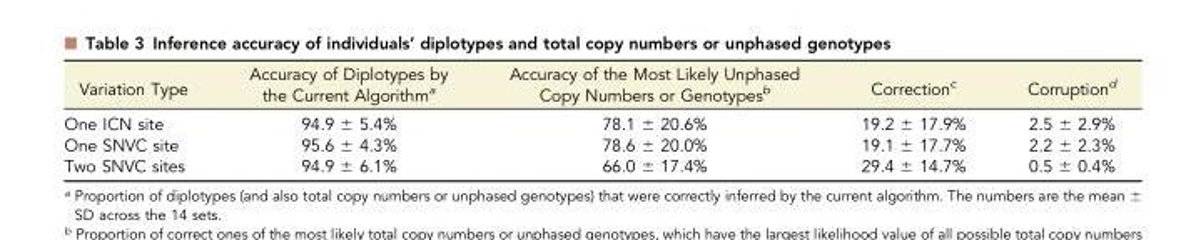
<table><thead><tr><td>Variation Type</td><td>Accuracy of Diplotypes by the Current Algorithma</td><td>Accuracy of the Most Likely Unphased Copy Numbers or Genotypesb</td><td>Correctionc</td><td>Corruptiond</td></tr></thead><tbody><tr><td>One ICN site</td><td>94.9 ± 5.4%</td><td>78.1 ± 20.6%</td><td>19.2 ± 17.9%</td><td>2.5 ± 2.9%</td></tr><tr><td>One SNVC site</td><td>95.6 ± 4.3%</td><td>78.6 ± 20.0%</td><td>19.1 ± 17.7%</td><td>2.2 ± 2.3%</td></tr><tr><td>Two SNVC sites</td><td>94.9 ± 6.1%</td><td>66.0 ± 17.4%</td><td>29.4 ± 14.7%</td><td>0.5 ± 0.4%</td></tr></tbody></table>